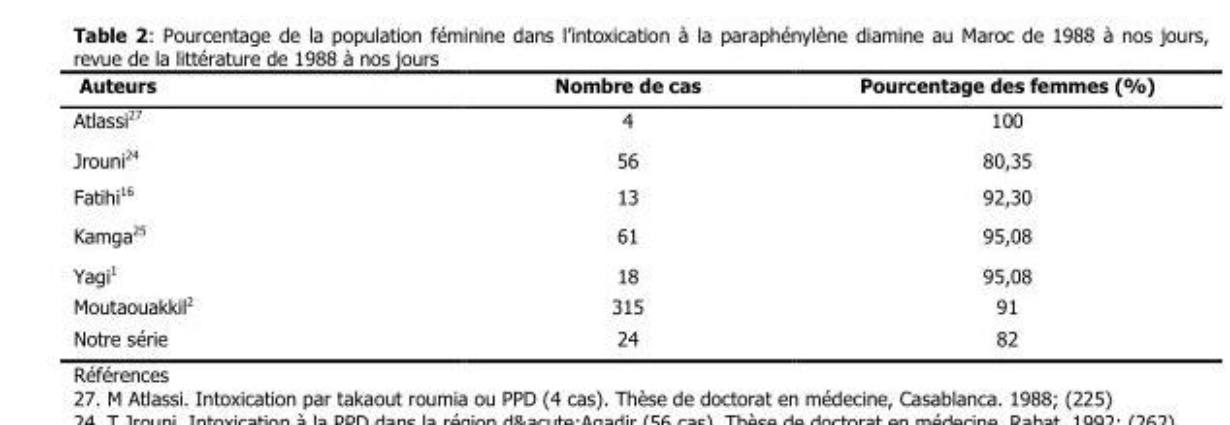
<table><thead><tr><td>Auteurs</td><td>Nombre de cas</td><td>Pourcentage des femmes (%)</td></tr></thead><tbody><tr><td>Atlassi<sup>27</sup></td><td>4</td><td>100</td></tr><tr><td>Jrouni<sup>24</sup></td><td>56</td><td>80,35</td></tr><tr><td>Fatihi<sup>16</sup></td><td>13</td><td>92,30</td></tr><tr><td>Kamga<sup>25</sup></td><td>61</td><td>95,08</td></tr><tr><td>Yagi<sup>1</sup></td><td>18</td><td>95,08</td></tr><tr><td>Moutaouakkil<sup>2</sup></td><td>315</td><td>91</td></tr><tr><td>Notre série</td><td>24</td><td>82</td></tr></tbody></table>